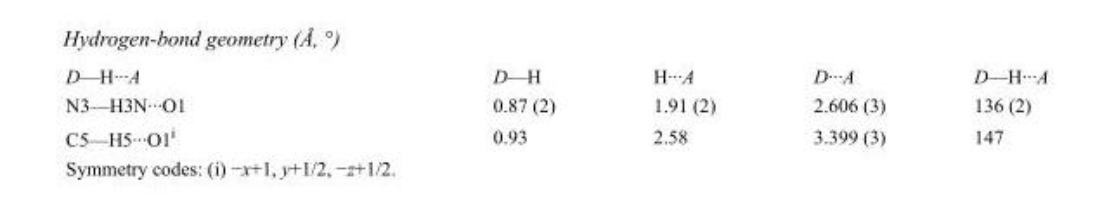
<table><tbody><tr><td>D—H···A</td><td>D—H</td><td>H···A</td><td>D···A</td><td>D—H···A</td></tr><tr><td>N3—H3N···O1</td><td>0.87 (2)</td><td>1.91 (2)</td><td>2.606 (3)</td><td>136 (2)</td></tr><tr><td>C5—H5···O1<sup>i</sup></td><td>0.93</td><td>2.58</td><td>3.399 (3)</td><td>147</td></tr></tbody></table>